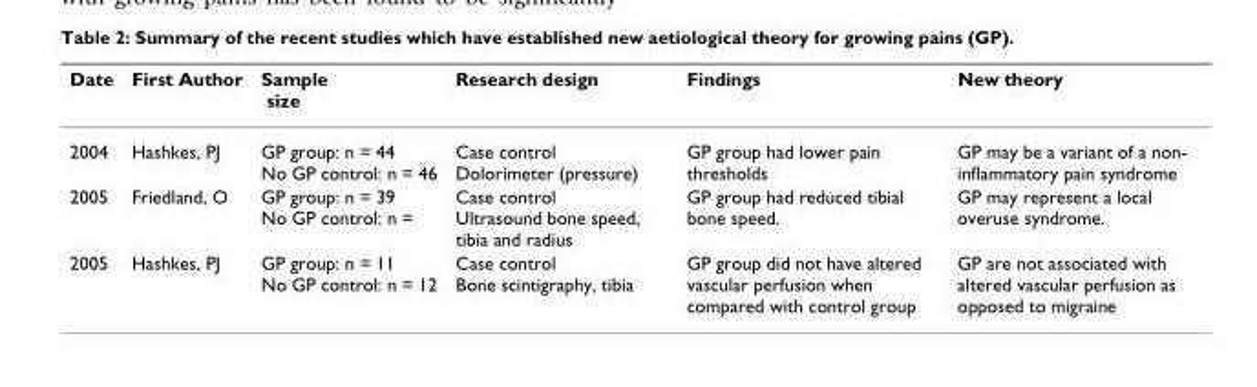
<table><thead><tr><td>Date</td><td>First Author</td><td>Sample size</td><td>Research design</td><td>Findings</td><td>New theory</td></tr></thead><tbody><tr><td>2004</td><td>Hashkes, PJ</td><td>GP group: n = 44 No GP control: n = 46</td><td>Case control Dolorimeter (pressure)</td><td>GP group had lower pain thresholds</td><td>GP may be a variant of a non- inflammatory pain syndrome</td></tr><tr><td>2005</td><td>Friedland, O</td><td>GP group: n = 39 No GP control: n =</td><td>Case control Ultrasound bone speed, tibia and radius</td><td>GP group had reduced tibial bone speed.</td><td>GP may represent a local overuse syndrome.</td></tr><tr><td>2005</td><td>Hashkes, PJ</td><td>GP group: n = 11 No GP control: n = 12</td><td>Case control Bone scintigraphy, tibia</td><td>GP group did not have altered vascular perfusion when compared with control group</td><td>GP are not associated with altered vascular perfusion as opposed to migraine</td></tr></tbody></table>